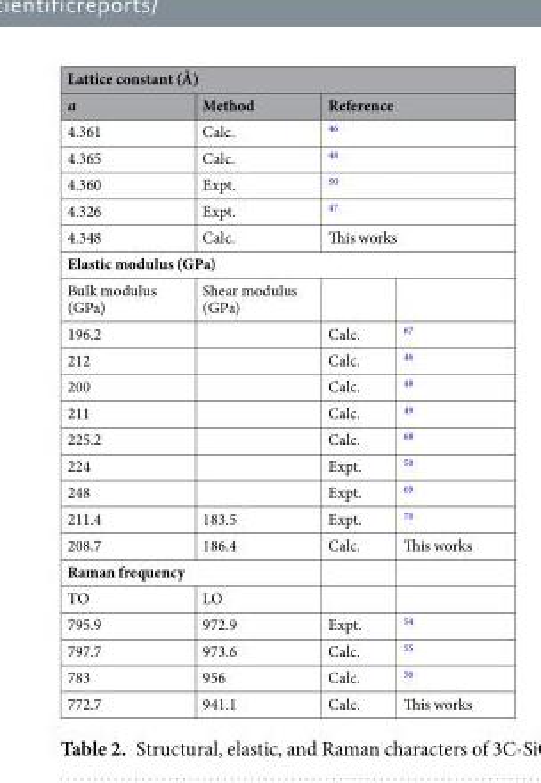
<table><thead><tr><td colspan="4">Lattice constant (Å)</td></tr><tr><td>a</td><td>Method</td><td colspan="2">Reference</td></tr></thead><tbody><tr><td>4.361</td><td>Calc.</td><td colspan="2"><sup>46</sup></td></tr><tr><td>4.365</td><td>Calc.</td><td colspan="2"><sup>48</sup></td></tr><tr><td>4.360</td><td>Expt.</td><td colspan="2"><sup>50</sup></td></tr><tr><td>4.326</td><td>Expt.</td><td colspan="2"><sup>47</sup></td></tr><tr><td>4.348</td><td>Calc.</td><td colspan="2">This works</td></tr><tr><td colspan="4">Elastic modulus (GPa)</td></tr><tr><td>Bulk modulus (GPa)</td><td>Shear modulus (GPa)</td><td></td><td></td></tr><tr><td>196.2</td><td></td><td>Calc.</td><td><sup>67</sup></td></tr><tr><td>212</td><td></td><td>Calc.</td><td><sup>46</sup></td></tr><tr><td>200</td><td></td><td>Calc.</td><td><sup>48</sup></td></tr><tr><td>211</td><td></td><td>Calc.</td><td><sup>49</sup></td></tr><tr><td>225.2</td><td></td><td>Calc.</td><td><sup>68</sup></td></tr><tr><td>224</td><td></td><td>Expt.</td><td><sup>50</sup></td></tr><tr><td>248</td><td></td><td>Expt.</td><td><sup>69</sup></td></tr><tr><td>211.4</td><td>183.5</td><td>Expt.</td><td><sup>70</sup></td></tr><tr><td>208.7</td><td>186.4</td><td>Calc.</td><td>This works</td></tr><tr><td colspan="4">Raman frequency</td></tr><tr><td>TO</td><td>LO</td><td></td><td></td></tr><tr><td>795.9</td><td>972.9</td><td>Expt.</td><td><sup>54</sup></td></tr><tr><td>797.7</td><td>973.6</td><td>Calc.</td><td><sup>55</sup></td></tr><tr><td>783</td><td>956</td><td>Calc.</td><td><sup>56</sup></td></tr><tr><td>772.7</td><td>941.1</td><td>Calc.</td><td>This works</td></tr></tbody></table>